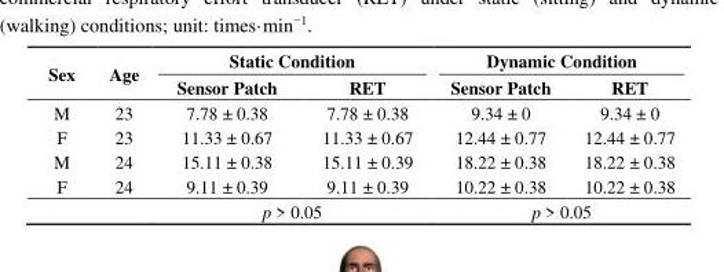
<table><thead><tr><td rowspan="2">Sex</td><td rowspan="2">Age</td><td colspan="2">Static Condition</td><td colspan="2">Dynamic Condition</td></tr><tr><td>Sensor Patch</td><td>RET</td><td>Sensor Patch</td><td>RET</td></tr></thead><tbody><tr><td>M</td><td>23</td><td>7.78 ± 0.38</td><td>7.78 ± 0.38</td><td>9.34 ± 0</td><td>9.34 ± 0</td></tr><tr><td>F</td><td>23</td><td>11.33 ± 0.67</td><td>11.33 ± 0.67</td><td>12.44 ± 0.77</td><td>12.44 ± 0.77</td></tr><tr><td>M</td><td>24</td><td>15.11 ± 0.38</td><td>15.11 ± 0.39</td><td>18.22 ± 0.38</td><td>18.22 ± 0.38</td></tr><tr><td>F</td><td>24</td><td>9.11 ± 0.39</td><td>9.11 ± 0.39</td><td>10.22 ± 0.38</td><td>10.22 ± 0.38</td></tr><tr><td colspan="2"></td><td colspan="2">p &gt; 0.05</td><td colspan="2">p &gt; 0.05</td></tr></tbody></table>